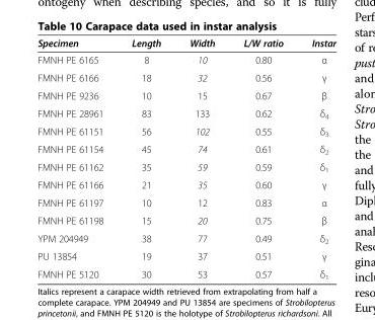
<table><thead><tr><td>Specimen</td><td>Length</td><td>Width</td><td>L/W ratio</td><td>Instar</td></tr></thead><tbody><tr><td>FMNH PE 6165</td><td>8</td><td>10</td><td>0.80</td><td>α</td></tr><tr><td>FMNH PE 6166</td><td>18</td><td>32</td><td>0.56</td><td>γ</td></tr><tr><td>FMNH PE 9236</td><td>10</td><td>15</td><td>0.67</td><td>β</td></tr><tr><td>FMNH PE 28961</td><td>83</td><td>133</td><td>0.62</td><td>δ<sub>4</sub></td></tr><tr><td>FMNH PE 61151</td><td>56</td><td>102</td><td>0.55</td><td>δ<sub>3</sub></td></tr><tr><td>FMNH PE 61154</td><td>45</td><td>74</td><td>0.61</td><td>δ<sub>2</sub></td></tr><tr><td>FMNH PE 61162</td><td>35</td><td>59</td><td>0.59</td><td>δ<sub>1</sub></td></tr><tr><td>FMNH PE 61166</td><td>21</td><td>35</td><td>0.60</td><td>γ</td></tr><tr><td>FMNH PE 61197</td><td>10</td><td>12</td><td>0.83</td><td>α</td></tr><tr><td>FMNH PE 61198</td><td>15</td><td>20</td><td>0.75</td><td>β</td></tr><tr><td>YPM 204949</td><td>38</td><td>77</td><td>0.49</td><td>δ<sub>2</sub></td></tr><tr><td>PU 13854</td><td>19</td><td>37</td><td>0.51</td><td>γ</td></tr><tr><td>FMNH PE 5120</td><td>30</td><td>53</td><td>0.57</td><td>δ<sub>1</sub></td></tr></tbody></table>